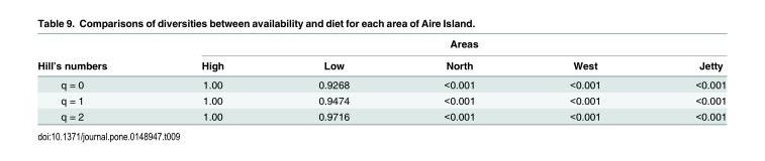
<table><thead><tr><td rowspan="2">Hill’s numbers</td><td colspan="5">Areas</td></tr><tr><td>High</td><td>Low</td><td>North</td><td>West</td><td>Jetty</td></tr></thead><tbody><tr><td>q = 0</td><td>1.00</td><td>0.9268</td><td>&lt;0.001</td><td>&lt;0.001</td><td>&lt;0.001</td></tr><tr><td>q = 1</td><td>1.00</td><td>0.9474</td><td>&lt;0.001</td><td>&lt;0.001</td><td>&lt;0.001</td></tr><tr><td>q = 2</td><td>1.00</td><td>0.9716</td><td>&lt;0.001</td><td>&lt;0.001</td><td>&lt;0.001</td></tr></tbody></table>